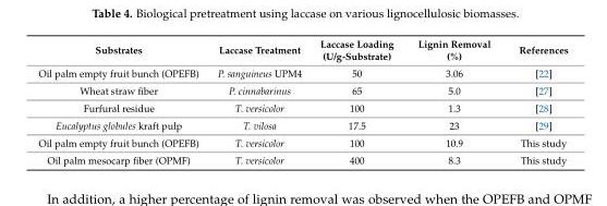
<table><thead><tr><td>Substrates</td><td>Laccase Treatment</td><td>Laccase Loading (U/g-Substrate)</td><td>Lignin Removal (%)</td><td>References</td></tr></thead><tbody><tr><td>Oil palm empty fruit bunch (OPEFB)</td><td>P. sanguineus UPM4</td><td>50</td><td>3.06</td><td>[22]</td></tr><tr><td>Wheat straw fiber</td><td>P. cinnabarinus</td><td>65</td><td>5.0</td><td>[27]</td></tr><tr><td>Furfural residue</td><td>T. versicolor</td><td>100</td><td>1.3</td><td>[28]</td></tr><tr><td>Eucalyptus globules kraft pulp</td><td>T. vilosa</td><td>17.5</td><td>23</td><td>[29]</td></tr><tr><td>Oil palm empty fruit bunch (OPEFB)</td><td>T. versicolor</td><td>100</td><td>10.9</td><td>This study</td></tr><tr><td>Oil palm mesocarp fiber (OPMF)</td><td>T. versicolor</td><td>400</td><td>8.3</td><td>This study</td></tr></tbody></table>